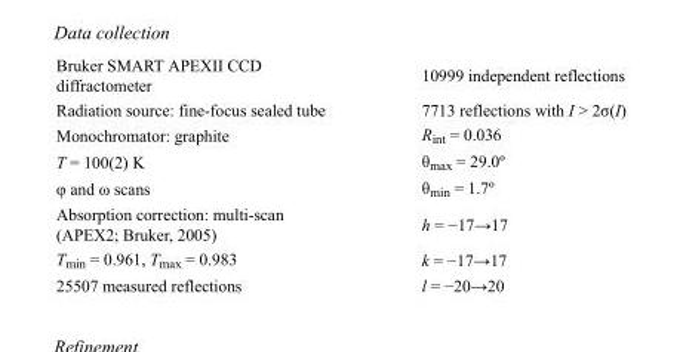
<table><tbody><tr><td>Bruker SMART APEXII CCD diffractometer</td><td>10999 independent reflections</td></tr><tr><td>Radiation source: fine-focus sealed tube</td><td>7713 reflections with I &gt; 2σ(I)</td></tr><tr><td>Monochromator: graphite</td><td>R<sub>int</sub> = 0.036</td></tr><tr><td>T = 100(2) K</td><td>θ<sub>max</sub> = 29.0º</td></tr><tr><td>φ and ω scans</td><td>θ<sub>min</sub> = 1.7º</td></tr><tr><td>Absorption correction: multi-scan (APEX2; Bruker, 2005)</td><td>h = −17→17</td></tr><tr><td>T<sub>min</sub> = 0.961, T<sub>max</sub> = 0.983</td><td>k = −17→17</td></tr><tr><td>25507 measured reflections</td><td>l = −20→20</td></tr></tbody></table>